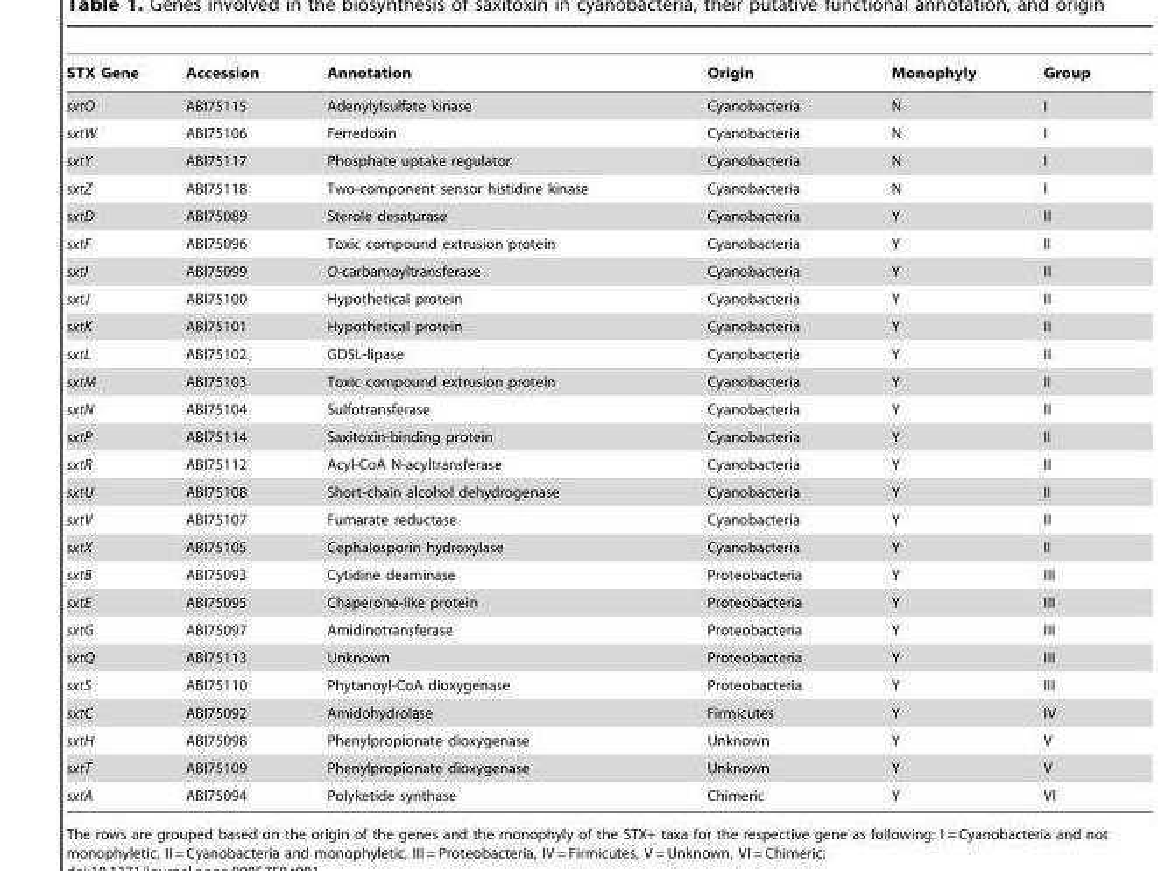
<table><thead><tr><td>STX Gene</td><td>Accession</td><td>Annotation</td><td>Origin</td><td>Monophyly</td><td>Group</td></tr></thead><tbody><tr><td>sxtO</td><td>ABI75115</td><td>Adenylylsulfate kinase</td><td>Cyanobacteria</td><td>N</td><td>I</td></tr><tr><td>sxtW</td><td>ABI75106</td><td>Ferredoxin</td><td>Cyanobacteria</td><td>N</td><td>I</td></tr><tr><td>sxtY</td><td>ABI75117</td><td>Phosphate uptake regulator</td><td>Cyanobacteria</td><td>N</td><td>I</td></tr><tr><td>sxtZ</td><td>ABI75118</td><td>Two-component sensor histidine kinase</td><td>Cyanobacteria</td><td>N</td><td>I</td></tr><tr><td>sxtD</td><td>ABI75089</td><td>Sterole desaturase</td><td>Cyanobacteria</td><td>Y</td><td>II</td></tr><tr><td>sxtF</td><td>ABI75096</td><td>Toxic compound extrusion protein</td><td>Cyanobacteria</td><td>Y</td><td>II</td></tr><tr><td>sxtI</td><td>ABI75099</td><td>O-carbamoyltransferase</td><td>Cyanobacteria</td><td>Y</td><td>II</td></tr><tr><td>sxtJ</td><td>ABI75100</td><td>Hypothetical protein</td><td>Cyanobacteria</td><td>Y</td><td>II</td></tr><tr><td>sxtK</td><td>ABI75101</td><td>Hypothetical protein</td><td>Cyanobacteria</td><td>Y</td><td>II</td></tr><tr><td>sxtL</td><td>ABI75102</td><td>GDSL-lipase</td><td>Cyanobacteria</td><td>Y</td><td>II</td></tr><tr><td>sxtM</td><td>ABI75103</td><td>Toxic compound extrusion protein</td><td>Cyanobacteria</td><td>Y</td><td>II</td></tr><tr><td>sxtN</td><td>ABI75104</td><td>Sulfotransferase</td><td>Cyanobacteria</td><td>Y</td><td>II</td></tr><tr><td>sxtP</td><td>ABI75114</td><td>Saxitoxin-binding protein</td><td>Cyanobacteria</td><td>Y</td><td>II</td></tr><tr><td>sxtR</td><td>ABI75112</td><td>Acyl-CoA N-acyltransferase</td><td>Cyanobacteria</td><td>Y</td><td>II</td></tr><tr><td>sxtU</td><td>ABI75108</td><td>Short-chain alcohol dehydrogenase</td><td>Cyanobacteria</td><td>Y</td><td>II</td></tr><tr><td>sxtV</td><td>ABI75107</td><td>Fumarate reductase</td><td>Cyanobacteria</td><td>Y</td><td>II</td></tr><tr><td>sxtX</td><td>ABI75105</td><td>Cephalosporin hydroxylase</td><td>Cyanobacteria</td><td>Y</td><td>II</td></tr><tr><td>sxtB</td><td>ABI75093</td><td>Cytidine deaminase</td><td>Proteobacteria</td><td>Y</td><td>III</td></tr><tr><td>sxtE</td><td>ABI75095</td><td>Chaperone-like protein</td><td>Proteobacteria</td><td>Y</td><td>III</td></tr><tr><td>sxtG</td><td>ABI75097</td><td>Amidinotransferase</td><td>Proteobacteria</td><td>Y</td><td>III</td></tr><tr><td>sxtQ</td><td>ABI75113</td><td>Unknown</td><td>Proteobacteria</td><td>Y</td><td>III</td></tr><tr><td>sxtS</td><td>ABI75110</td><td>Phytanoyl-CoA dioxygenase</td><td>Proteobacteria</td><td>Y</td><td>III</td></tr><tr><td>sxtC</td><td>ABI75092</td><td>Amidohydrolase</td><td>Firmicutes</td><td>Y</td><td>IV</td></tr><tr><td>sxtH</td><td>ABI75098</td><td>Phenylpropionate dioxygenase</td><td>Unknown</td><td>Y</td><td>V</td></tr><tr><td>sxtT</td><td>ABI75109</td><td>Phenylpropionate dioxygenase</td><td>Unknown</td><td>Y</td><td>V</td></tr><tr><td>sxtA</td><td>ABI75094</td><td>Polyketide synthase</td><td>Chimeric</td><td>Y</td><td>VI</td></tr></tbody></table>